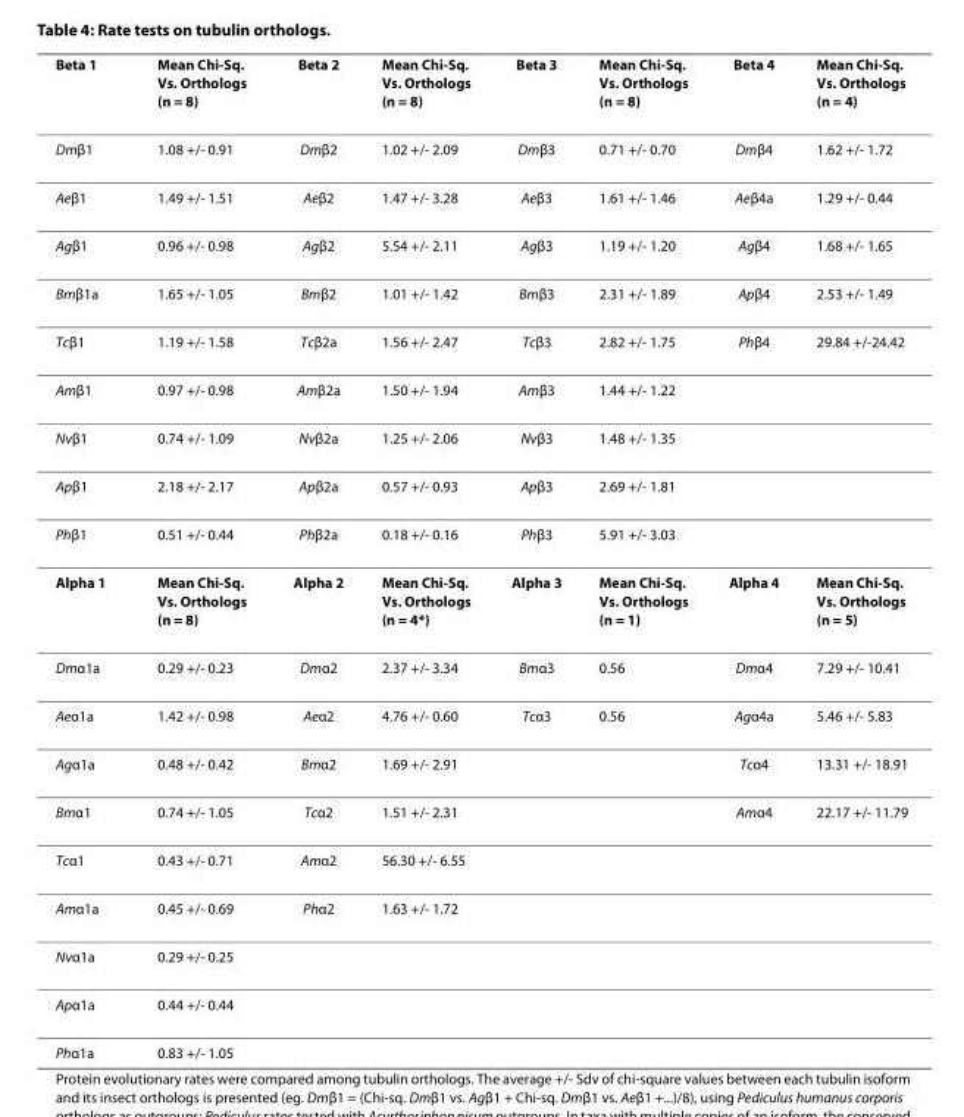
<table><thead><tr><td>Beta 1</td><td>Mean Chi-Sq. Vs. Orthologs (n = 8)</td><td>Beta 2</td><td>Mean Chi-Sq. Vs. Orthologs (n = 8)</td><td>Beta 3</td><td>Mean Chi-Sq. Vs. Orthologs (n = 8)</td><td>Beta 4</td><td>Mean Chi-Sq. Vs. Orthologs (n = 4)</td></tr></thead><tbody><tr><td>Dmβ1</td><td>1.08 +/- 0.91</td><td>Dmβ2</td><td>1.02 +/- 2.09</td><td>Dmβ3</td><td>0.71 +/- 0.70</td><td>Dmβ4</td><td>1.62 +/- 1.72</td></tr><tr><td>Aeβ1</td><td>1.49 +/- 1.51</td><td>Aeβ2</td><td>1.47 +/- 3.28</td><td>Aeβ3</td><td>1.61 +/- 1.46</td><td>Aeβ4a</td><td>1.29 +/- 0.44</td></tr><tr><td>Agβ1</td><td>0.96 +/- 0.98</td><td>Agβ2</td><td>5.54 +/- 2.11</td><td>Agβ3</td><td>1.19 +/- 1.20</td><td>Agβ4</td><td>1.68 +/- 1.65</td></tr><tr><td>Bmβ1a</td><td>1.65 +/- 1.05</td><td>Bmβ2</td><td>1.01 +/- 1.42</td><td>Bmβ3</td><td>2.31 +/- 1.89</td><td>Apβ4</td><td>2.53 +/- 1.49</td></tr><tr><td>Tcβ1</td><td>1.19 +/- 1.58</td><td>Tcβ2a</td><td>1.56 +/- 2.47</td><td>Tcβ3</td><td>2.82 +/- 1.75</td><td>Phβ4</td><td>29.84 +/-24.42</td></tr><tr><td>Amβ1</td><td>0.97 +/- 0.98</td><td>Amβ2a</td><td>1.50 +/- 1.94</td><td>Amβ3</td><td>1.44 +/- 1.22</td><td></td><td></td></tr><tr><td>Nvβ1</td><td>0.74 +/- 1.09</td><td>Nvβ2a</td><td>1.25 +/- 2.06</td><td>Nvβ3</td><td>1.48 +/- 1.35</td><td></td><td></td></tr><tr><td>Apβ1</td><td>2.18 +/- 2.17</td><td>Apβ2a</td><td>0.57 +/- 0.93</td><td>Apβ3</td><td>2.69 +/- 1.81</td><td></td><td></td></tr><tr><td>Phβ1</td><td>0.51 +/- 0.44</td><td>Phβ2a</td><td>0.18 +/- 0.16</td><td>Phβ3</td><td>5.91 +/- 3.03</td><td></td><td></td></tr><tr><td>Alpha 1</td><td>Mean Chi-Sq. Vs. Orthologs (n = 8)</td><td>Alpha 2</td><td>Mean Chi-Sq. Vs. Orthologs (n = 4*)</td><td>Alpha 3</td><td>Mean Chi-Sq. Vs. Orthologs (n = 1)</td><td>Alpha 4</td><td>Mean Chi-Sq. Vs. Orthologs (n = 5)</td></tr><tr><td>Dmα1a</td><td>0.29 +/- 0.23</td><td>Dmα2</td><td>2.37 +/- 3.34</td><td>Bmα3</td><td>0.56</td><td>Dmα4</td><td>7.29 +/- 10.41</td></tr><tr><td>Aeα1a</td><td>1.42 +/- 0.98</td><td>Aeα2</td><td>4.76 +/- 0.60</td><td>Tcα3</td><td>0.56</td><td>Agα4a</td><td>5.46 +/- 5.83</td></tr><tr><td>Agα1a</td><td>0.48 +/- 0.42</td><td>Bmα2</td><td>1.69 +/- 2.91</td><td></td><td></td><td>Tcα4</td><td>13.31 +/- 18.91</td></tr><tr><td>Bmα1</td><td>0.74 +/- 1.05</td><td>Tcα2</td><td>1.51 +/- 2.31</td><td></td><td></td><td>Amα4</td><td>22.17 +/- 11.79</td></tr><tr><td>Tcα1</td><td>0.43 +/- 0.71</td><td>Amα2</td><td>56.30 +/- 6.55</td><td></td><td></td><td></td><td></td></tr><tr><td>Amα1a</td><td>0.45 +/- 0.69</td><td>Phα2</td><td>1.63 +/- 1.72</td><td></td><td></td><td></td><td></td></tr><tr><td>Nvα1a</td><td>0.29 +/- 0.25</td><td></td><td></td><td></td><td></td><td></td><td></td></tr><tr><td>Apα1a</td><td>0.44 +/- 0.44</td><td></td><td></td><td></td><td></td><td></td><td></td></tr><tr><td>Phα1a</td><td>0.83 +/- 1.05</td><td></td><td></td><td></td><td></td><td></td><td></td></tr></tbody></table>